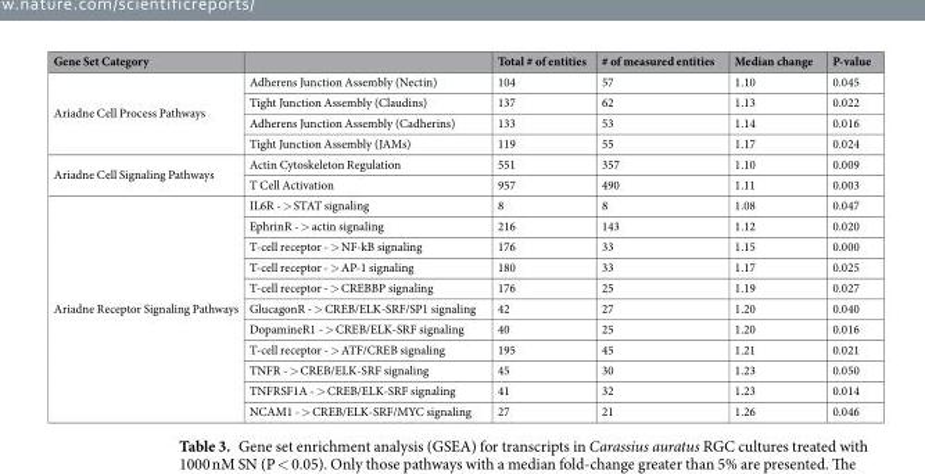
<table><thead><tr><td>Gene Set Category</td><td></td><td>Total # of entities</td><td># of measured entities</td><td>Median change</td><td>P-value</td></tr></thead><tbody><tr><td rowspan="4">Ariadne Cell Process Pathways</td><td>Adherens Junction Assembly (Nectin)</td><td>104</td><td>57</td><td>1.10</td><td>0.045</td></tr><tr><td>Tight Junction Assembly (Claudins)</td><td>137</td><td>62</td><td>1.13</td><td>0.022</td></tr><tr><td>Adherens Junction Assembly (Cadherins)</td><td>133</td><td>53</td><td>1.14</td><td>0.016</td></tr><tr><td>Tight Junction Assembly (JAMs)</td><td>119</td><td>55</td><td>1.17</td><td>0.024</td></tr><tr><td rowspan="2">Ariadne Cell Signaling Pathways</td><td>Actin Cytoskeleton Regulation</td><td>551</td><td>357</td><td>1.10</td><td>0.009</td></tr><tr><td>T Cell Activation</td><td>957</td><td>490</td><td>1.11</td><td>0.003</td></tr><tr><td rowspan="11">Ariadne Receptor Signaling Pathways</td><td>IL6R - &gt; STAT signaling</td><td>8</td><td>8</td><td>1.08</td><td>0.047</td></tr><tr><td>EphrinR - &gt; actin signaling</td><td>216</td><td>143</td><td>1.12</td><td>0.020</td></tr><tr><td>T-cell receptor - &gt; NF-kB signaling</td><td>176</td><td>33</td><td>1.15</td><td>0.000</td></tr><tr><td>T-cell receptor - &gt; AP-1 signaling</td><td>180</td><td>33</td><td>1.17</td><td>0.025</td></tr><tr><td>T-cell receptor - &gt; CREBBP signaling</td><td>176</td><td>25</td><td>1.19</td><td>0.027</td></tr><tr><td>GlucagonR - &gt; CREB/ELK-SRF/SP1 signaling</td><td>42</td><td>27</td><td>1.20</td><td>0.040</td></tr><tr><td>DopamineR1 - &gt; CREB/ELK-SRF signaling</td><td>40</td><td>25</td><td>1.20</td><td>0.016</td></tr><tr><td>T-cell receptor - &gt; ATF/CREB signaling</td><td>195</td><td>45</td><td>1.21</td><td>0.021</td></tr><tr><td>TNFR - &gt; CREB/ELK-SRF signaling</td><td>45</td><td>30</td><td>1.23</td><td>0.050</td></tr><tr><td>TNFRSF1A - &gt; CREB/ELK-SRF signaling</td><td>41</td><td>32</td><td>1.23</td><td>0.014</td></tr><tr><td>NCAM1 - &gt; CREB/ELK-SRF/MYC signaling</td><td>27</td><td>21</td><td>1.26</td><td>0.046</td></tr></tbody></table>